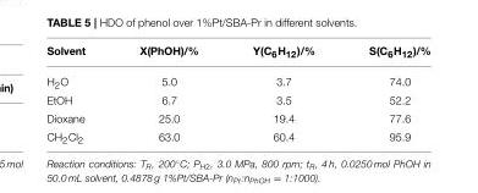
<table><thead><tr><td>Solvent</td><td>X(PhOH)/%</td><td>Y(C<sub>6</sub>H<sub>12</sub>)/%</td><td>S(C<sub>6</sub>H<sub>12</sub>)/%</td></tr></thead><tbody><tr><td>H<sub>2</sub>O</td><td>5.0</td><td>3.7</td><td>74.0</td></tr><tr><td>EtOH</td><td>6.7</td><td>3.5</td><td>52.2</td></tr><tr><td>Dioxane</td><td>25.0</td><td>19.4</td><td>77.6</td></tr><tr><td>CH<sub>2</sub>Cl<sub>2</sub></td><td>63.0</td><td>60.4</td><td>95.9</td></tr></tbody></table>